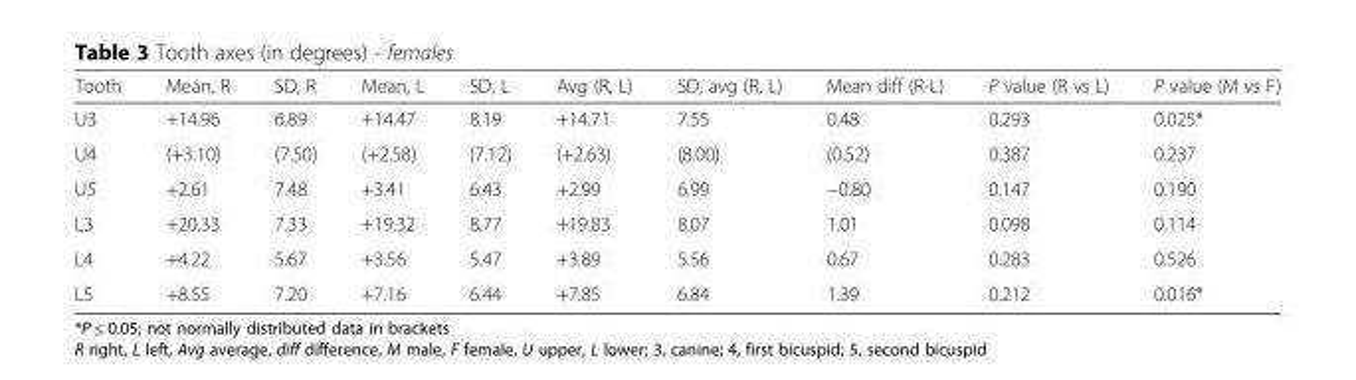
<table><thead><tr><td>Tooth</td><td>Mean, R</td><td>SD, R</td><td>Mean, L</td><td>SD, L</td><td>Avg (R, L)</td><td>SD, avg (R, L)</td><td>Mean diff (R-L)</td><td>P value (R vs L)</td><td>P value (M vs F)</td></tr></thead><tbody><tr><td>U3</td><td>+14.96</td><td>6.89</td><td>+14.47</td><td>8.19</td><td>+14.71</td><td>7.55</td><td>0.48</td><td>0.293</td><td>0.025*</td></tr><tr><td>U4</td><td>(+3.10)</td><td>(7.50)</td><td>(+2.58)</td><td>(7.12)</td><td>(+2.63)</td><td>(8.00)</td><td>(0.52)</td><td>0.387</td><td>0.237</td></tr><tr><td>U5</td><td>+2.61</td><td>7.48</td><td>+3.41</td><td>6.43</td><td>+2.99</td><td>6.99</td><td>−0.80</td><td>0.147</td><td>0.190</td></tr><tr><td>L3</td><td>+20.33</td><td>7.33</td><td>+19.32</td><td>8.77</td><td>+19.83</td><td>8.07</td><td>1.01</td><td>0.098</td><td>0.114</td></tr><tr><td>L4</td><td>+4.22</td><td>5.67</td><td>+3.56</td><td>5.47</td><td>+3.89</td><td>5.56</td><td>0.67</td><td>0.283</td><td>0.526</td></tr><tr><td>L5</td><td>+8.55</td><td>7.20</td><td>+7.16</td><td>6.44</td><td>+7.85</td><td>6.84</td><td>1.39</td><td>0.212</td><td>0.016*</td></tr></tbody></table>